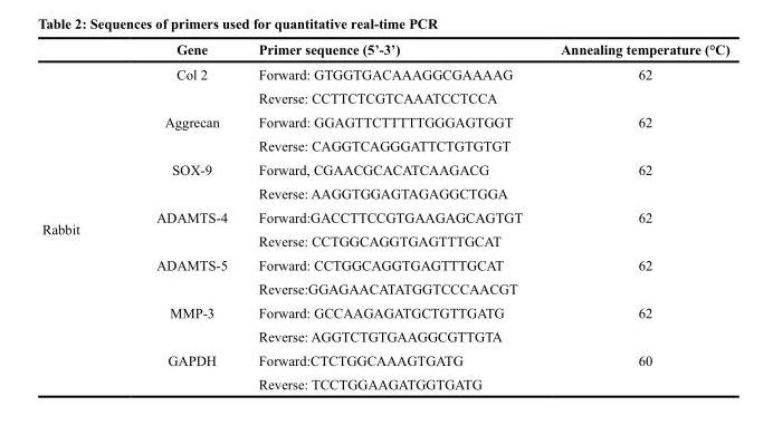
<table><thead><tr><td></td><td>Gene</td><td>Primer sequence (5’-3’)</td><td>Annealing temperature (°C)</td></tr></thead><tbody><tr><td rowspan="14">Rabbit</td><td>Col 2</td><td>Forward: GTGGTGACAAAGGCGAAAAG</td><td>62</td></tr><tr><td></td><td>Reverse: CCTTCTCGTCAAATCCTCCA</td><td></td></tr><tr><td>Aggrecan</td><td>Forward: GGAGTTCTTTTTGGGAGTGGT</td><td>62</td></tr><tr><td></td><td>Reverse: CAGGTCAGGGATTCTGTGTGT</td><td></td></tr><tr><td>SOX-9</td><td>Forward, CGAACGCACATCAAGACG</td><td>62</td></tr><tr><td></td><td>Reverse: AAGGTGGAGTAGAGGCTGGA</td><td></td></tr><tr><td>ADAMTS-4</td><td>Forward:GACCTTCCGTGAAGAGCAGTGT</td><td>62</td></tr><tr><td></td><td>Reverse: CCTGGCAGGTGAGTTTGCAT</td><td></td></tr><tr><td>ADAMTS-5</td><td>Forward: CCTGGCAGGTGAGTTTGCAT</td><td>62</td></tr><tr><td></td><td>Reverse:GGAGAACATATGGTCCCAACGT</td><td></td></tr><tr><td>MMP-3</td><td>Forward: GCCAAGAGATGCTGTTGATG</td><td>62</td></tr><tr><td></td><td>Reverse: AGGTCTGTGAAGGCGTTGTA</td><td></td></tr><tr><td>GAPDH</td><td>Forward:CTCTGGCAAAGTGATG</td><td>60</td></tr><tr><td></td><td>Reverse: TCCTGGAAGATGGTGATG</td><td></td></tr></tbody></table>